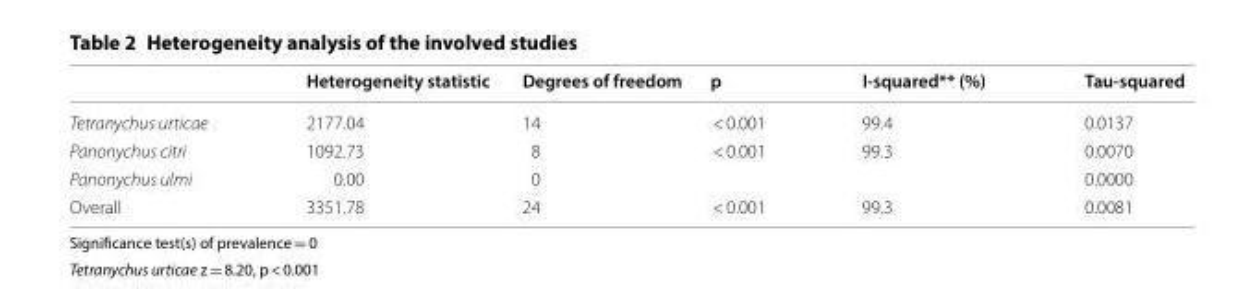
<table><thead><tr><td></td><td>Heterogeneity statistic</td><td>Degrees of freedom</td><td>p</td><td>I‑squared** (%)</td><td>Tau‑squared</td></tr></thead><tbody><tr><td>Tetranychus urticae</td><td>2177.04</td><td>14</td><td>&lt; 0.001</td><td>99.4</td><td>0.0137</td></tr><tr><td>Panonychus citri</td><td>1092.73</td><td>8</td><td>&lt; 0.001</td><td>99.3</td><td>0.0070</td></tr><tr><td>Panonychus ulmi</td><td>0.00</td><td>0</td><td></td><td></td><td>0.0000</td></tr><tr><td>Overall</td><td>3351.78</td><td>24</td><td>&lt; 0.001</td><td>99.3</td><td>0.0081</td></tr></tbody></table>